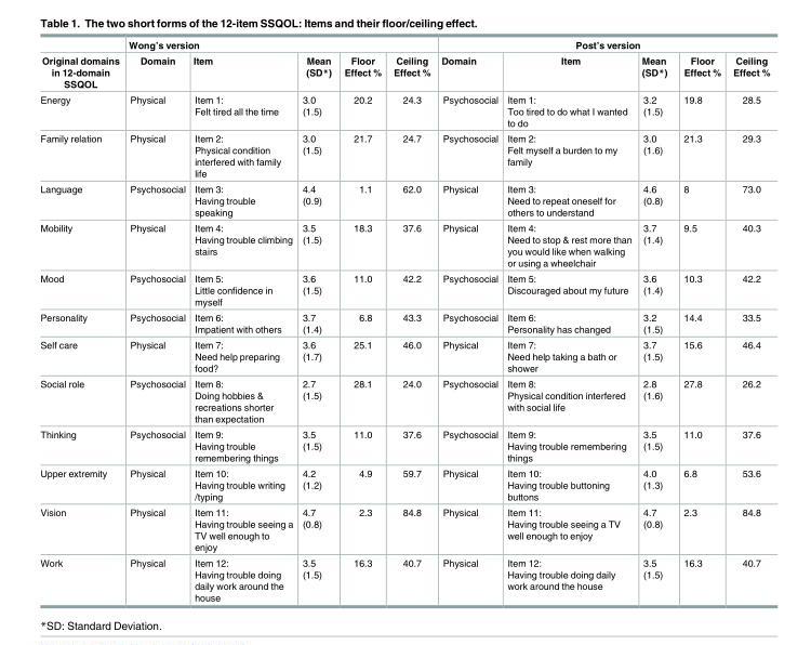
<table><thead><tr><td rowspan="2">Original domains in 12-domain SSQOL</td><td colspan="5">Wong’s version</td><td colspan="5">Post’s version</td></tr><tr><td>Domain</td><td>Item</td><td>Mean (SD*)</td><td>Floor Effect %</td><td>Ceiling Effect %</td><td>Domain</td><td>Item</td><td>Mean (SD*)</td><td>Floor Effect %</td><td>Ceiling Effect %</td></tr></thead><tbody><tr><td>Energy</td><td>Physical</td><td>Item 1: Felt tired all the time</td><td>3.0 (1.5)</td><td>20.2</td><td>24.3</td><td>Psychosocial</td><td>Item 1: Too tired to do what I wanted to do</td><td>3.2 (1.5)</td><td>19.8</td><td>28.5</td></tr><tr><td>Family relation</td><td>Physical</td><td>Item 2: Physical condition interfered with family life</td><td>3.0 (1.5)</td><td>21.7</td><td>24.7</td><td>Psychosocial</td><td>Item 2: Felt myself a burden to my family</td><td>3.0 (1.6)</td><td>21.3</td><td>29.3</td></tr><tr><td>Language</td><td>Psychosocial</td><td>Item 3: Having trouble speaking</td><td>4.4 (0.9)</td><td>1.1</td><td>62.0</td><td>Physical</td><td>Item 3: Need to repeat oneself for others to understand</td><td>4.6 (0.8)</td><td>8</td><td>73.0</td></tr><tr><td>Mobility</td><td>Physical</td><td>Item 4: Having trouble climbing stairs</td><td>3.5 (1.5)</td><td>18.3</td><td>37.6</td><td>Physical</td><td>Item 4: Need to stop &amp; rest more than you would like when walking or using a wheelchair</td><td>3.7 (1.4)</td><td>9.5</td><td>40.3</td></tr><tr><td>Mood</td><td>Psychosocial</td><td>Item 5: Little confidence in myself</td><td>3.6 (1.5)</td><td>11.0</td><td>42.2</td><td>Psychosocial</td><td>Item 5: Discouraged about my future</td><td>3.6 (1.4)</td><td>10.3</td><td>42.2</td></tr><tr><td>Personality</td><td>Psychosocial</td><td>Item 6: Impatient with others</td><td>3.7 (1.4)</td><td>6.8</td><td>43.3</td><td>Psychosocial</td><td>Item 6: Personality has changed</td><td>3.2 (1.5)</td><td>14.4</td><td>33.5</td></tr><tr><td>Self care</td><td>Physical</td><td>Item 7: Need help preparing food?</td><td>3.6 (1.7)</td><td>25.1</td><td>46.0</td><td>Physical</td><td>Item 7: Need help taking a bath or shower</td><td>3.7 (1.5)</td><td>15.6</td><td>46.4</td></tr><tr><td>Social role</td><td>Psychosocial</td><td>Item 8: Doing hobbies &amp; recreations shorter than expectation</td><td>2.7 (1.5)</td><td>28.1</td><td>24.0</td><td>Psychosocial</td><td>Item 8: Physical condition interfered with social life</td><td>2.8 (1.6)</td><td>27.8</td><td>26.2</td></tr><tr><td>Thinking</td><td>Psychosocial</td><td>Item 9: Having trouble remembering things</td><td>3.5 (1.5)</td><td>11.0</td><td>37.6</td><td>Psychosocial</td><td>Item 9: Having trouble remembering things</td><td>3.5 (1.5)</td><td>11.0</td><td>37.6</td></tr><tr><td>Upper extremity</td><td>Physical</td><td>Item 10: Having trouble writing /typing</td><td>4.2 (1.2)</td><td>4.9</td><td>59.7</td><td>Physical</td><td>Item 10: Having trouble buttoning buttons</td><td>4.0 (1.3)</td><td>6.8</td><td>53.6</td></tr><tr><td>Vision</td><td>Physical</td><td>Item 11: Having trouble seeing a TV well enough to enjoy</td><td>4.7 (0.8)</td><td>2.3</td><td>84.8</td><td>Physical</td><td>Item 11: Having trouble seeing a TV well enough to enjoy</td><td>4.7 (0.8)</td><td>2.3</td><td>84.8</td></tr><tr><td>Work</td><td>Physical</td><td>Item 12: Having trouble doing daily work around the house</td><td>3.5 (1.5)</td><td>16.3</td><td>40.7</td><td>Physical</td><td>Item 12: Having trouble doing daily work around the house</td><td>3.5 (1.5)</td><td>16.3</td><td>40.7</td></tr></tbody></table>